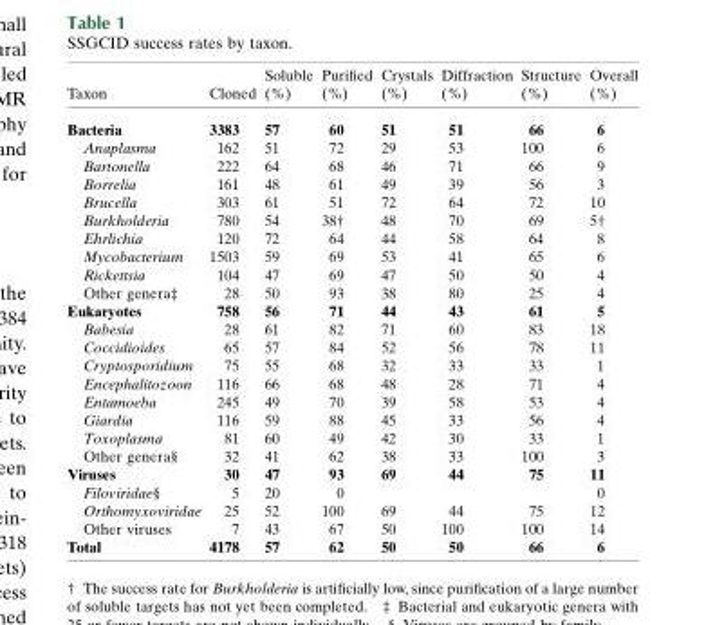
<table><thead><tr><td>Taxon</td><td>Cloned</td><td>Soluble (%)</td><td>Purified (%)</td><td>Crystals (%)</td><td>Diffraction (%)</td><td>Structure (%)</td><td>Overall (%)</td></tr></thead><tbody><tr><td>Bacteria</td><td>3383</td><td>57</td><td>60</td><td>51</td><td>51</td><td>66</td><td>6</td></tr><tr><td>Anaplasma</td><td>162</td><td>51</td><td>72</td><td>29</td><td>53</td><td>100</td><td>6</td></tr><tr><td>Bartonella</td><td>222</td><td>64</td><td>68</td><td>46</td><td>71</td><td>66</td><td>9</td></tr><tr><td>Borrelia</td><td>161</td><td>48</td><td>61</td><td>49</td><td>39</td><td>56</td><td>3</td></tr><tr><td>Brucella</td><td>303</td><td>61</td><td>51</td><td>72</td><td>64</td><td>72</td><td>10</td></tr><tr><td>Burkholderia</td><td>780</td><td>54</td><td>38†</td><td>48</td><td>70</td><td>69</td><td>5†</td></tr><tr><td>Ehrlichia</td><td>120</td><td>72</td><td>64</td><td>44</td><td>58</td><td>64</td><td>8</td></tr><tr><td>Mycobacterium</td><td>1503</td><td>59</td><td>69</td><td>53</td><td>41</td><td>65</td><td>6</td></tr><tr><td>Rickettsia</td><td>104</td><td>47</td><td>69</td><td>47</td><td>50</td><td>50</td><td>4</td></tr><tr><td>Other genera‡</td><td>28</td><td>50</td><td>93</td><td>38</td><td>80</td><td>25</td><td>4</td></tr><tr><td>Eukaryotes</td><td>758</td><td>56</td><td>71</td><td>44</td><td>43</td><td>61</td><td>5</td></tr><tr><td>Babesia</td><td>28</td><td>61</td><td>82</td><td>71</td><td>60</td><td>83</td><td>18</td></tr><tr><td>Coccidioides</td><td>65</td><td>57</td><td>84</td><td>52</td><td>56</td><td>78</td><td>11</td></tr><tr><td>Cryptosporidium</td><td>75</td><td>55</td><td>68</td><td>32</td><td>33</td><td>33</td><td>1</td></tr><tr><td>Encephalitozoon</td><td>116</td><td>66</td><td>68</td><td>48</td><td>28</td><td>71</td><td>4</td></tr><tr><td>Entamoeba</td><td>245</td><td>49</td><td>70</td><td>39</td><td>58</td><td>53</td><td>4</td></tr><tr><td>Giardia</td><td>116</td><td>59</td><td>88</td><td>45</td><td>33</td><td>56</td><td>4</td></tr><tr><td>Toxoplasma</td><td>81</td><td>60</td><td>49</td><td>42</td><td>30</td><td>33</td><td>1</td></tr><tr><td>Other genera§</td><td>32</td><td>41</td><td>62</td><td>38</td><td>33</td><td>100</td><td>3</td></tr><tr><td>Viruses</td><td>30</td><td>47</td><td>93</td><td>69</td><td>44</td><td>75</td><td>11</td></tr><tr><td>Filoviridae§</td><td>5</td><td>20</td><td>0</td><td></td><td></td><td></td><td>0</td></tr><tr><td>Orthomyxoviridae</td><td>25</td><td>52</td><td>100</td><td>69</td><td>44</td><td>75</td><td>12</td></tr><tr><td>Other viruses</td><td>7</td><td>43</td><td>67</td><td>50</td><td>100</td><td>100</td><td>14</td></tr><tr><td>Total</td><td>4178</td><td>57</td><td>62</td><td>50</td><td>50</td><td>66</td><td>6</td></tr></tbody></table>